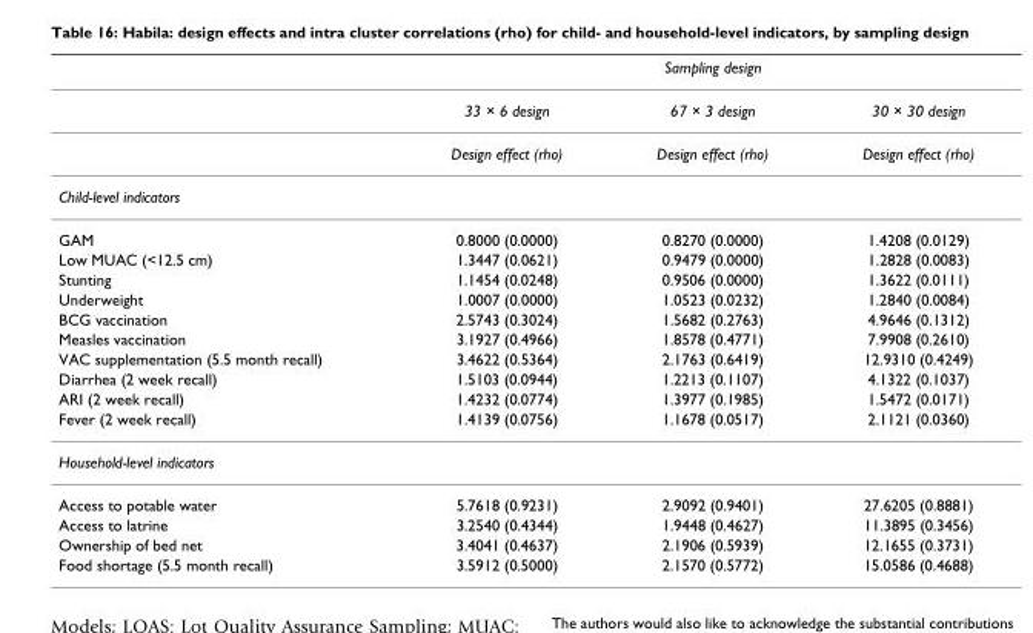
<table><thead><tr><td rowspan="2"></td><td colspan="3">Sampling design</td></tr><tr><td>33 × 6 design</td><td>67 × 3 design</td><td>30 × 30 design</td></tr></thead><tbody><tr><td></td><td>Design effect (rho)</td><td>Design effect (rho)</td><td>Design effect (rho)</td></tr><tr><td colspan="4">Child-level indicators</td></tr><tr><td>GAM</td><td>0.8000 (0.0000)</td><td>0.8270 (0.0000)</td><td>1.4208 (0.0129)</td></tr><tr><td>Low MUAC (&lt;12.5 cm)</td><td>1.3447 (0.0621)</td><td>0.9479 (0.0000)</td><td>1.2828 (0.0083)</td></tr><tr><td>Stunting</td><td>1.1454 (0.0248)</td><td>0.9506 (0.0000)</td><td>1.3622 (0.0111)</td></tr><tr><td>Underweight</td><td>1.0007 (0.0000)</td><td>1.0523 (0.0232)</td><td>1.2840 (0.0084)</td></tr><tr><td>BCG vaccination</td><td>2.5743 (0.3024)</td><td>1.5682 (0.2763)</td><td>4.9646 (0.1312)</td></tr><tr><td>Measles vaccination</td><td>3.1927 (0.4966)</td><td>1.8578 (0.4771)</td><td>7.9908 (0.2610)</td></tr><tr><td>VAC supplementation (5.5 month recall)</td><td>3.4622 (0.5364)</td><td>2.1763 (0.6419)</td><td>12.9310 (0.4249)</td></tr><tr><td>Diarrhea (2 week recall)</td><td>1.5103 (0.0944)</td><td>1.2213 (0.1107)</td><td>4.1322 (0.1037)</td></tr><tr><td>ARI (2 week recall)</td><td>1.4232 (0.0774)</td><td>1.3977 (0.1985)</td><td>1.5472 (0.0171)</td></tr><tr><td>Fever (2 week recall)</td><td>1.4139 (0.0756)</td><td>1.1678 (0.0517)</td><td>2.1121 (0.0360)</td></tr><tr><td colspan="4">Household-level indicators</td></tr><tr><td>Access to potable water</td><td>5.7618 (0.9231)</td><td>2.9092 (0.9401)</td><td>27.6205 (0.8881)</td></tr><tr><td>Access to latrine</td><td>3.2540 (0.4344)</td><td>1.9448 (0.4627)</td><td>11.3895 (0.3456)</td></tr><tr><td>Ownership of bed net</td><td>3.4041 (0.4637)</td><td>2.1906 (0.5939)</td><td>12.1655 (0.3731)</td></tr><tr><td>Food shortage (5.5 month recall)</td><td>3.5912 (0.5000)</td><td>2.1570 (0.5772)</td><td>15.0586 (0.4688)</td></tr></tbody></table>